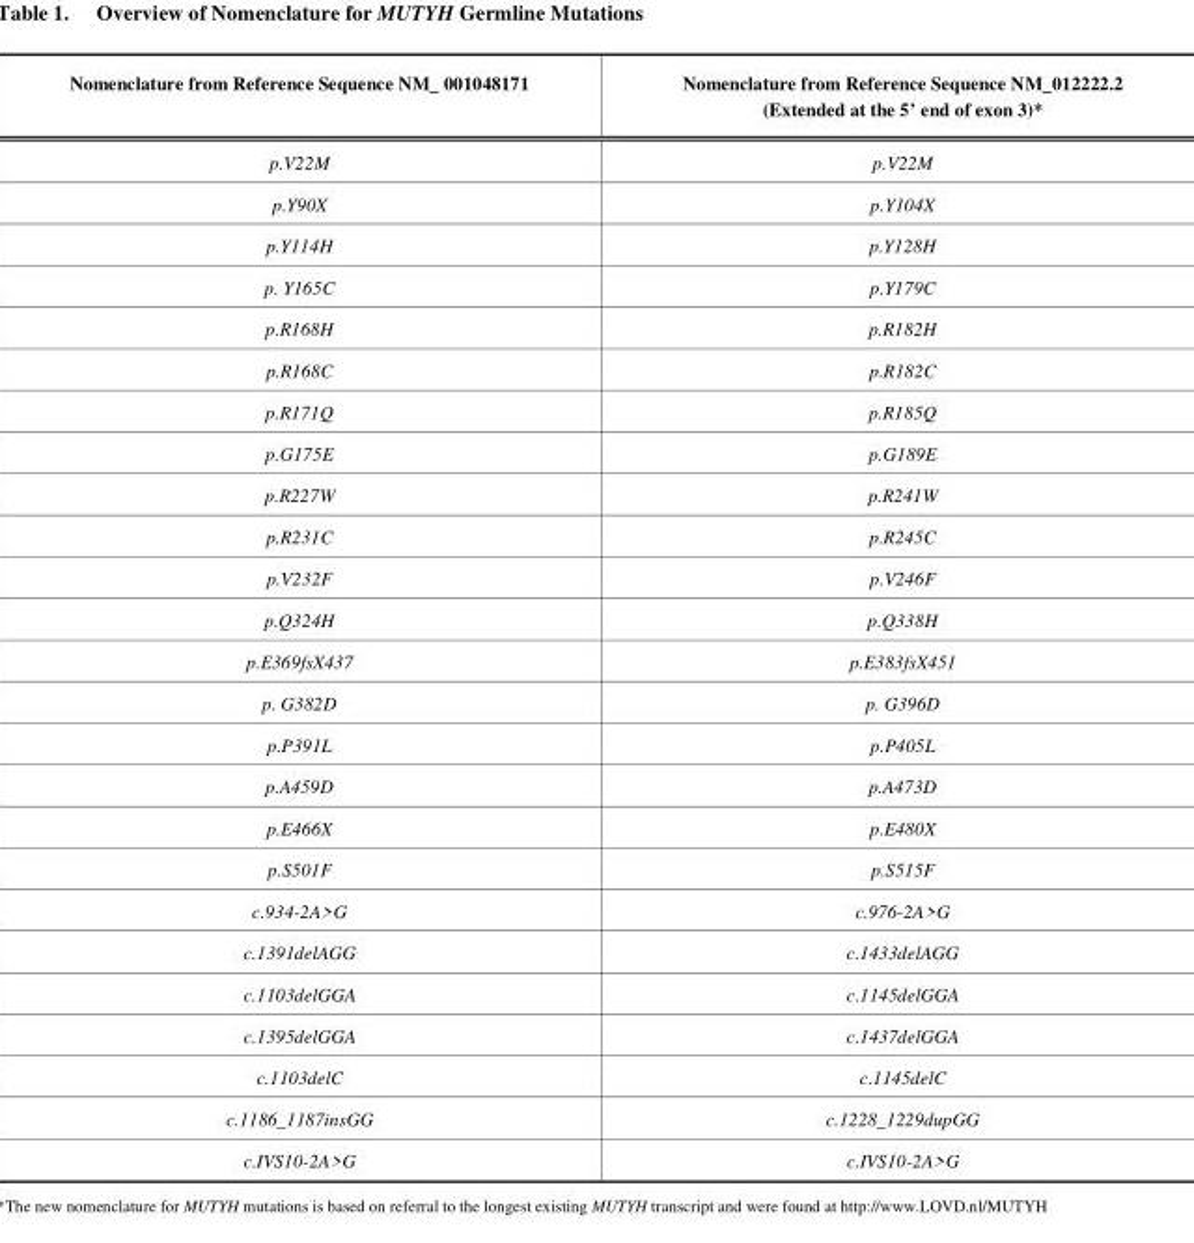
<table><thead><tr><td>Nomenclature from Reference Sequence NM_ 001048171</td><td>Nomenclature from Reference Sequence NM_012222.2 (Extended at the 5’ end of exon 3)*</td></tr></thead><tbody><tr><td>p.V22M</td><td>p.V22M</td></tr><tr><td>p.Y90X</td><td>p.Y104X</td></tr><tr><td>p.Y114H</td><td>p.Y128H</td></tr><tr><td>p. Y165C</td><td>p.Y179C</td></tr><tr><td>p.R168H</td><td>p.R182H</td></tr><tr><td>p.R168C</td><td>p.R182C</td></tr><tr><td>p.R171Q</td><td>p.R185Q</td></tr><tr><td>p.G175E</td><td>p.G189E</td></tr><tr><td>p.R227W</td><td>p.R241W</td></tr><tr><td>p.R231C</td><td>p.R245C</td></tr><tr><td>p.V232F</td><td>p.V246F</td></tr><tr><td>p.Q324H</td><td>p.Q338H</td></tr><tr><td>p.E369fsX437</td><td>p.E383fsX451</td></tr><tr><td>p. G382D</td><td>p. G396D</td></tr><tr><td>p.P391L</td><td>p.P405L</td></tr><tr><td>p.A459D</td><td>p.A473D</td></tr><tr><td>p.E466X</td><td>p.E480X</td></tr><tr><td>p.S501F</td><td>p.S515F</td></tr><tr><td>c.934-2A&gt;G</td><td>c.976-2A&gt;G</td></tr><tr><td>c.1391delAGG</td><td>c.1433delAGG</td></tr><tr><td>c.1103delGGA</td><td>c.1145delGGA</td></tr><tr><td>c.1395delGGA</td><td>c.1437delGGA</td></tr><tr><td>c.1103delC</td><td>c.1145delC</td></tr><tr><td>c.1186_1187insGG</td><td>c.1228_1229dupGG</td></tr><tr><td>c.IVS10-2A&gt;G</td><td>c.IVS10-2A&gt;G</td></tr></tbody></table>